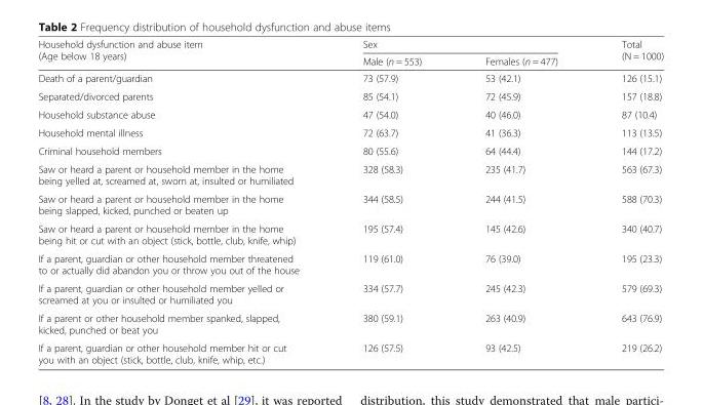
<table><thead><tr><td rowspan="2">Household dysfunction and abuse item (Age below 18 years)</td><td colspan="2">Sex</td><td rowspan="2">Total (N = 1000)</td></tr><tr><td>Male (n = 553)</td><td>Females (n = 477)</td></tr></thead><tbody><tr><td>Death of a parent/guardian</td><td>73 (57.9)</td><td>53 (42.1)</td><td>126 (15.1)</td></tr><tr><td>Separated/divorced parents</td><td>85 (54.1)</td><td>72 (45.9)</td><td>157 (18.8)</td></tr><tr><td>Household substance abuse</td><td>47 (54.0)</td><td>40 (46.0)</td><td>87 (10.4)</td></tr><tr><td>Household mental illness</td><td>72 (63.7)</td><td>41 (36.3)</td><td>113 (13.5)</td></tr><tr><td>Criminal household members</td><td>80 (55.6)</td><td>64 (44.4)</td><td>144 (17.2)</td></tr><tr><td>Saw or heard a parent or household member in the home being yelled at, screamed at, sworn at, insulted or humiliated</td><td>328 (58.3)</td><td>235 (41.7)</td><td>563 (67.3)</td></tr><tr><td>Saw or heard a parent or household member in the home being slapped, kicked, punched or beaten up</td><td>344 (58.5)</td><td>244 (41.5)</td><td>588 (70.3)</td></tr><tr><td>Saw or heard a parent or household member in the home being hit or cut with an object (stick, bottle, club, knife, whip)</td><td>195 (57.4)</td><td>145 (42.6)</td><td>340 (40.7)</td></tr><tr><td>If a parent, guardian or other household member threatened to or actually did abandon you or throw you out of the house</td><td>119 (61.0)</td><td>76 (39.0)</td><td>195 (23.3)</td></tr><tr><td>If a parent, guardian or other household member yelled or screamed at you or insulted or humiliated you</td><td>334 (57.7)</td><td>245 (42.3)</td><td>579 (69.3)</td></tr><tr><td>If a parent or other household member spanked, slapped, kicked, punched or beat you</td><td>380 (59.1)</td><td>263 (40.9)</td><td>643 (76.9)</td></tr><tr><td>If a parent, guardian or other household member hit or cut you with an object (stick, bottle, club, knife, whip, etc.)</td><td>126 (57.5)</td><td>93 (42.5)</td><td>219 (26.2)</td></tr></tbody></table>